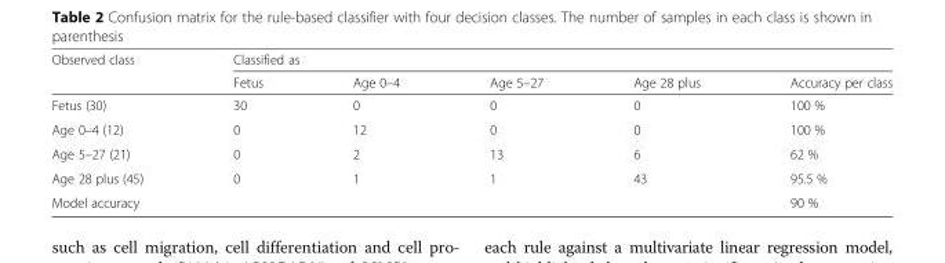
<table><thead><tr><td rowspan="2">Observed class</td><td colspan="5">Classified as</td></tr><tr><td>Fetus</td><td>Age 0–4</td><td>Age 5–27</td><td>Age 28 plus</td><td>Accuracy per class</td></tr></thead><tbody><tr><td>Fetus (30)</td><td>30</td><td>0</td><td>0</td><td>0</td><td>100 %</td></tr><tr><td>Age 0–4 (12)</td><td>0</td><td>12</td><td>0</td><td>0</td><td>100 %</td></tr><tr><td>Age 5–27 (21)</td><td>0</td><td>2</td><td>13</td><td>6</td><td>62 %</td></tr><tr><td>Age 28 plus (45)</td><td>0</td><td>1</td><td>1</td><td>43</td><td>95.5 %</td></tr><tr><td>Model accuracy</td><td></td><td></td><td></td><td></td><td>90 %</td></tr></tbody></table>